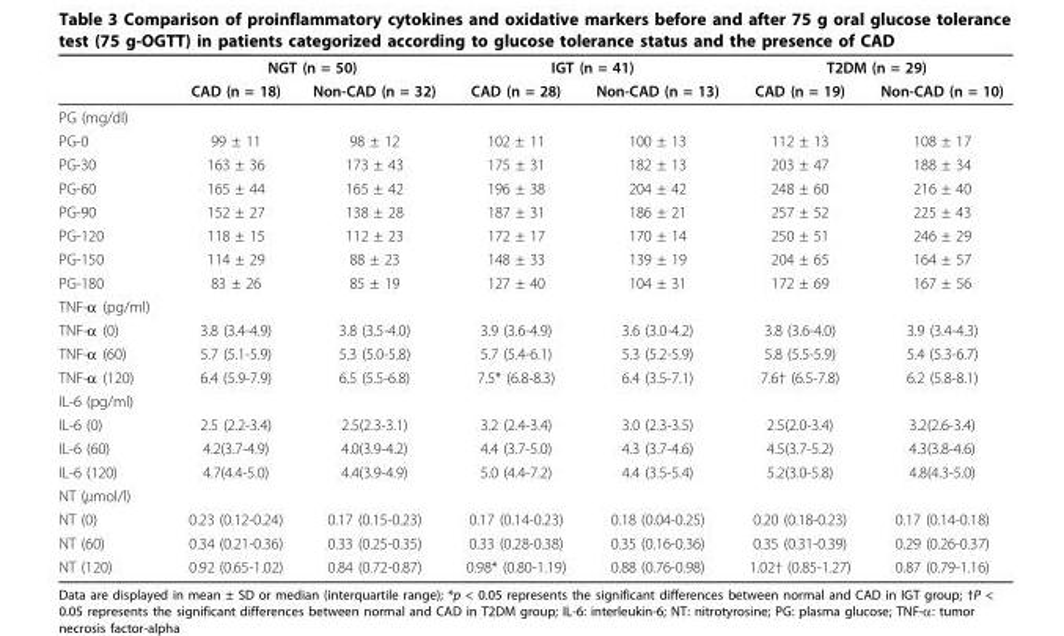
<table><thead><tr><td rowspan="2"></td><td colspan="2">NGT (n = 50)</td><td colspan="2">IGT (n = 41)</td><td colspan="2">T2DM (n = 29)</td></tr><tr><td>CAD (n = 18)</td><td>Non-CAD (n = 32)</td><td>CAD (n = 28)</td><td>Non-CAD (n = 13)</td><td>CAD (n = 19)</td><td>Non-CAD (n = 10)</td></tr></thead><tbody><tr><td colspan="7">PG (mg/dl)</td></tr><tr><td>PG-0</td><td>99 ± 11</td><td>98 ± 12</td><td>102 ± 11</td><td>100 ± 13</td><td>112 ± 13</td><td>108 ± 17</td></tr><tr><td>PG-30</td><td>163 ± 36</td><td>173 ± 43</td><td>175 ± 31</td><td>182 ± 13</td><td>203 ± 47</td><td>188 ± 34</td></tr><tr><td>PG-60</td><td>165 ± 44</td><td>165 ± 42</td><td>196 ± 38</td><td>204 ± 42</td><td>248 ± 60</td><td>216 ± 40</td></tr><tr><td>PG-90</td><td>152 ± 27</td><td>138 ± 28</td><td>187 ± 31</td><td>186 ± 21</td><td>257 ± 52</td><td>225 ± 43</td></tr><tr><td>PG-120</td><td>118 ± 15</td><td>112 ± 23</td><td>172 ± 17</td><td>170 ± 14</td><td>250 ± 51</td><td>246 ± 29</td></tr><tr><td>PG-150</td><td>114 ± 29</td><td>88 ± 23</td><td>148 ± 33</td><td>139 ± 19</td><td>204 ± 65</td><td>164 ± 57</td></tr><tr><td>PG-180</td><td>83 ± 26</td><td>85 ± 19</td><td>127 ± 40</td><td>104 ± 31</td><td>172 ± 69</td><td>167 ± 56</td></tr><tr><td colspan="7">TNF-α (pg/ml)</td></tr><tr><td>TNF-α (0)</td><td>3.8 (3.4-4.9)</td><td>3.8 (3.5-4.0)</td><td>3.9 (3.6-4.9)</td><td>3.6 (3.0-4.2)</td><td>3.8 (3.6-4.0)</td><td>3.9 (3.4-4.3)</td></tr><tr><td>TNF-α (60)</td><td>5.7 (5.1-5.9)</td><td>5.3 (5.0-5.8)</td><td>5.7 (5.4-6.1)</td><td>5.3 (5.2-5.9)</td><td>5.8 (5.5-5.9)</td><td>5.4 (5.3-6.7)</td></tr><tr><td>TNF-α (120)</td><td>6.4 (5.9-7.9)</td><td>6.5 (5.5-6.8)</td><td>7.5* (6.8-8.3)</td><td>6.4 (3.5-7.1)</td><td>7.6† (6.5-7.8)</td><td>6.2 (5.8-8.1)</td></tr><tr><td colspan="7">IL-6 (pg/ml)</td></tr><tr><td>IL-6 (0)</td><td>2.5 (2.2-3.4)</td><td>2.5(2.3-3.1)</td><td>3.2 (2.4-3.4)</td><td>3.0 (2.3-3.5)</td><td>2.5(2.0-3.4)</td><td>3.2(2.6-3.4)</td></tr><tr><td>IL-6 (60)</td><td>4.2(3.7-4.9)</td><td>4.0(3.9-4.2)</td><td>4.4 (3.7-5.0)</td><td>4.3 (3.7-4.6)</td><td>4.5(3.7-5.2)</td><td>4.3(3.8-4.6)</td></tr><tr><td>IL-6 (120)</td><td>4.7(4.4-5.0)</td><td>4.4(3.9-4.9)</td><td>5.0 (4.4-7.2)</td><td>4.4 (3.5-5.4)</td><td>5.2(3.0-5.8)</td><td>4.8(4.3-5.0)</td></tr><tr><td colspan="7">NT (μmol/l)</td></tr><tr><td>NT (0)</td><td>0.23 (0.12-0.24)</td><td>0.17 (0.15-0.23)</td><td>0.17 (0.14-0.23)</td><td>0.18 (0.04-0.25)</td><td>0.20 (0.18-0.23)</td><td>0.17 (0.14-0.18)</td></tr><tr><td>NT (60)</td><td>0.34 (0.21-0.36)</td><td>0.33 (0.25-0.35)</td><td>0.33 (0.28-0.38)</td><td>0.35 (0.16-0.36)</td><td>0.35 (0.31-0.39)</td><td>0.29 (0.26-0.37)</td></tr><tr><td>NT (120)</td><td>0.92 (0.65-1.02)</td><td>0.84 (0.72-0.87)</td><td>0.98* (0.80-1.19)</td><td>0.88 (0.76-0.98)</td><td>1.02† (0.85-1.27)</td><td>0.87 (0.79-1.16)</td></tr></tbody></table>